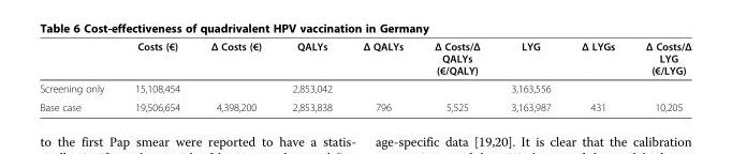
<table><thead><tr><td></td><td>Costs (€)</td><td>Δ Costs (€)</td><td>QALYs</td><td>Δ QALYs</td><td>Δ Costs/Δ QALYs (€/QALY)</td><td>LYG</td><td>Δ LYGs</td><td>Δ Costs/Δ LYG (€/LYG)</td></tr></thead><tbody><tr><td>Screening only</td><td>15,108,454</td><td></td><td>2,853,042</td><td></td><td></td><td>3,163,556</td><td></td><td></td></tr><tr><td>Base case</td><td>19,506,654</td><td>4,398,200</td><td>2,853,838</td><td>796</td><td>5,525</td><td>3,163,987</td><td>431</td><td>10,205</td></tr></tbody></table>